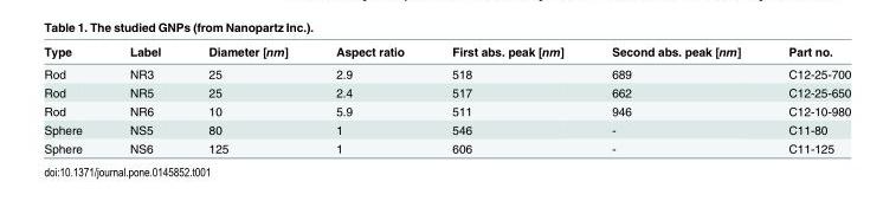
<table><thead><tr><td>Type</td><td>Label</td><td>Diameter [nm]</td><td>Aspect ratio</td><td>First abs. peak [nm]</td><td>Second abs. peak [nm]</td><td>Part no.</td></tr></thead><tbody><tr><td>Rod</td><td>NR3</td><td>25</td><td>2.9</td><td>518</td><td>689</td><td>C12-25-700</td></tr><tr><td>Rod</td><td>NR5</td><td>25</td><td>2.4</td><td>517</td><td>662</td><td>C12-25-650</td></tr><tr><td>Rod</td><td>NR6</td><td>10</td><td>5.9</td><td>511</td><td>946</td><td>C12-10-980</td></tr><tr><td>Sphere</td><td>NS5</td><td>80</td><td>1</td><td>546</td><td>-</td><td>C11-80</td></tr><tr><td>Sphere</td><td>NS6</td><td>125</td><td>1</td><td>606</td><td>-</td><td>C11-125</td></tr></tbody></table>